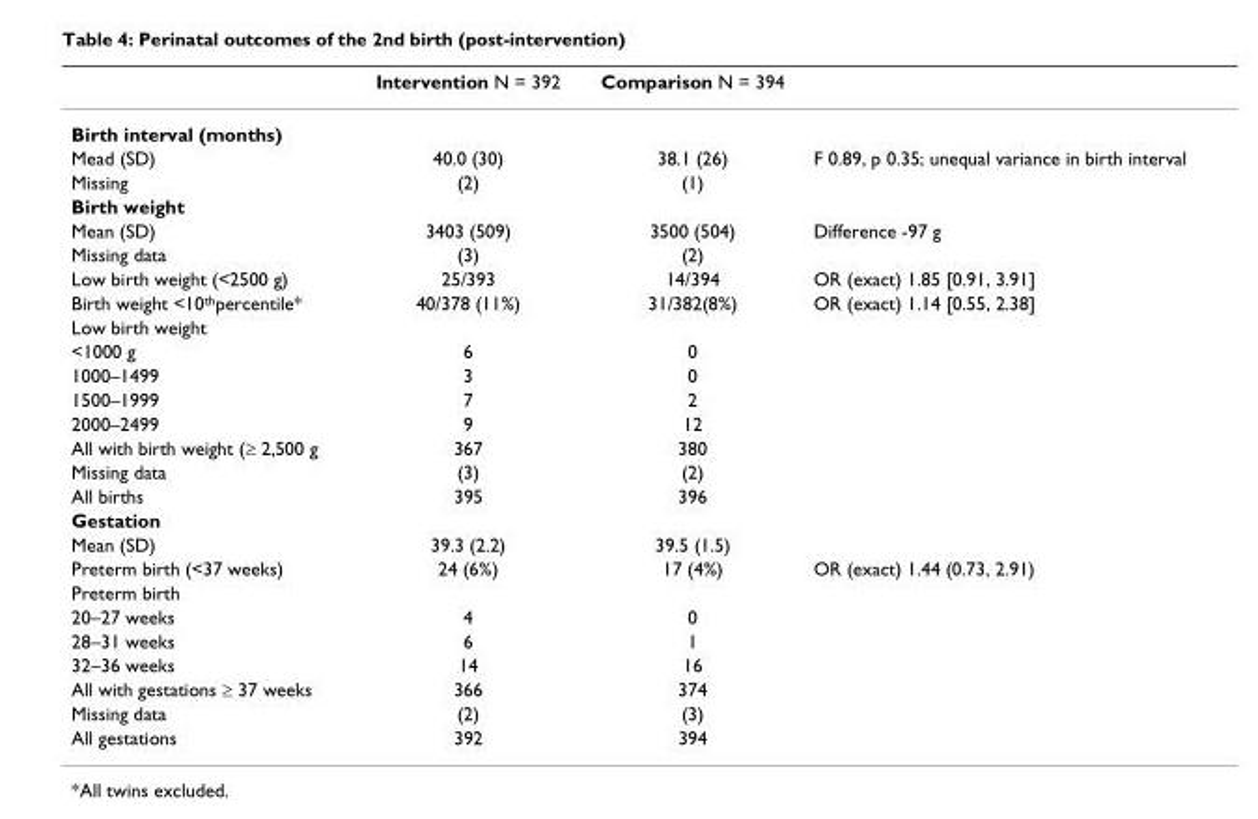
<table><thead><tr><td></td><td>Intervention N = 392</td><td>Comparison N = 394</td><td></td></tr></thead><tbody><tr><td colspan="4">Birth interval (months)</td></tr><tr><td>Mead (SD)</td><td>40.0 (30)</td><td>38.1 (26)</td><td>F 0.89, p 0.35; unequal variance in birth interval</td></tr><tr><td>Missing</td><td>(2)</td><td>(1)</td><td></td></tr><tr><td colspan="4">Birth weight</td></tr><tr><td>Mean (SD)</td><td>3403 (509)</td><td>3500 (504)</td><td>Difference -97 g</td></tr><tr><td>Missing data</td><td>(3)</td><td>(2)</td><td></td></tr><tr><td>Low birth weight (&lt;2500 g)</td><td>25/393</td><td>14/394</td><td>OR (exact) 1.85 [0.91, 3.91]</td></tr><tr><td>Birth weight &lt;10thpercentile*</td><td>40/378 (11%)</td><td>31/382(8%)</td><td>OR (exact) 1.14 [0.55, 2.38]</td></tr><tr><td colspan="4">Low birth weight</td></tr><tr><td>&lt;1000 g</td><td>6</td><td>0</td><td></td></tr><tr><td>1000–1499</td><td>3</td><td>0</td><td></td></tr><tr><td>1500–1999</td><td>7</td><td>2</td><td></td></tr><tr><td>2000–2499</td><td>9</td><td>12</td><td></td></tr><tr><td>All with birth weight (≥ 2,500 g</td><td>367</td><td>380</td><td></td></tr><tr><td>Missing data</td><td>(3)</td><td>(2)</td><td></td></tr><tr><td>All births</td><td>395</td><td>396</td><td></td></tr><tr><td colspan="4">Gestation</td></tr><tr><td>Mean (SD)</td><td>39.3 (2.2)</td><td>39.5 (1.5)</td><td></td></tr><tr><td>Preterm birth (&lt;37 weeks)</td><td>24 (6%)</td><td>17 (4%)</td><td>OR (exact) 1.44 (0.73, 2.91)</td></tr><tr><td colspan="4">Preterm birth</td></tr><tr><td>20–27 weeks</td><td>4</td><td>0</td><td></td></tr><tr><td>28–31 weeks</td><td>6</td><td>1</td><td></td></tr><tr><td>32–36 weeks</td><td>14</td><td>16</td><td></td></tr><tr><td>All with gestations ≥ 37 weeks</td><td>366</td><td>374</td><td></td></tr><tr><td>Missing data</td><td>(2)</td><td>(3)</td><td></td></tr><tr><td>All gestations</td><td>392</td><td>394</td><td></td></tr></tbody></table>